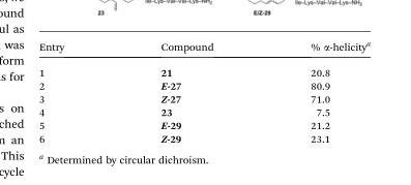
<table><thead><tr><td>Entry</td><td>Compound</td><td>% α-helicity<sup>a</sup></td></tr></thead><tbody><tr><td>1</td><td>21</td><td>20.8</td></tr><tr><td>2</td><td>E-27</td><td>80.9</td></tr><tr><td>3</td><td>Z-27</td><td>71.0</td></tr><tr><td>4</td><td>23</td><td>7.5</td></tr><tr><td>5</td><td>E-29</td><td>21.2</td></tr><tr><td>6</td><td>Z-29</td><td>23.1</td></tr></tbody></table>